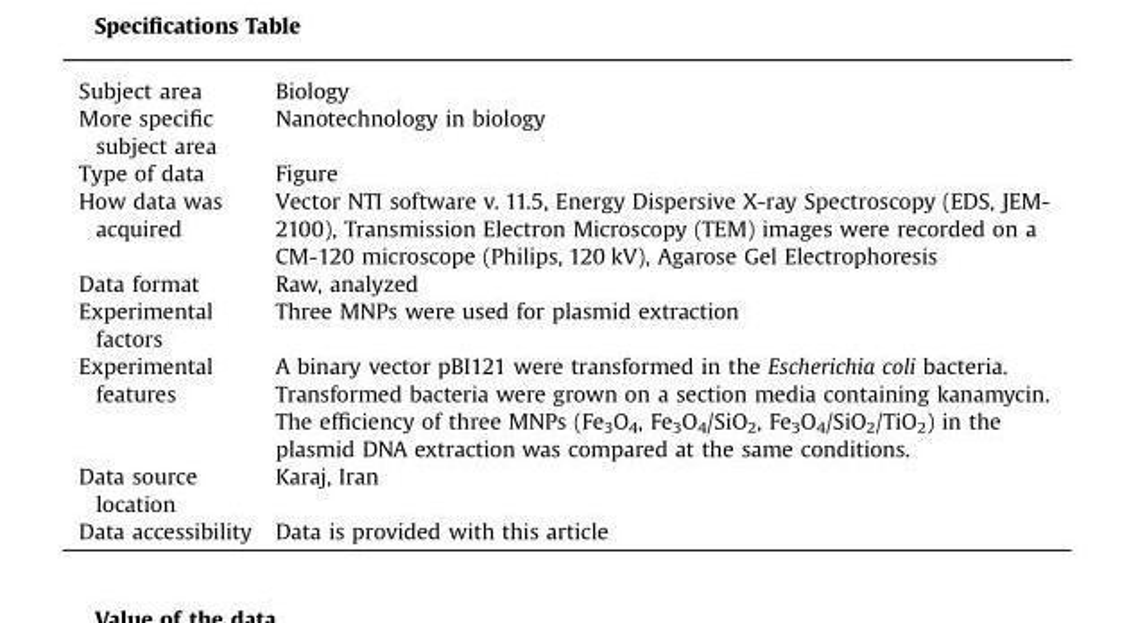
<table><tbody><tr><td>Subject area</td><td>Biology</td></tr><tr><td>More specific subject area</td><td>Nanotechnology in biology</td></tr><tr><td>Type of data</td><td>Figure</td></tr><tr><td>How data was acquired</td><td>Vector NTI software v. 11.5, Energy Dispersive X-ray Spectroscopy (EDS, JEM- 2100), Transmission Electron Microscopy (TEM) images were recorded on a CM-120 microscope (Philips, 120 kV), Agarose Gel Electrophoresis</td></tr><tr><td>Data format</td><td>Raw, analyzed</td></tr><tr><td>Experimental factors</td><td>Three MNPs were used for plasmid extraction</td></tr><tr><td>Experimental features</td><td>A binary vector pBI121 were transformed in the Escherichia coli bacteria. Transformed bacteria were grown on a section media containing kanamycin. The efficiency of three MNPs (Fe<sub>3</sub>O<sub>4</sub>, Fe<sub>3</sub>O<sub>4</sub>/SiO<sub>2</sub>, Fe<sub>3</sub>O<sub>4</sub>/SiO<sub>2</sub>/TiO<sub>2</sub>) in the plasmid DNA extraction was compared at the same conditions.</td></tr><tr><td>Data source location</td><td>Karaj, Iran</td></tr><tr><td>Data accessibility</td><td>Data is provided with this article</td></tr></tbody></table>